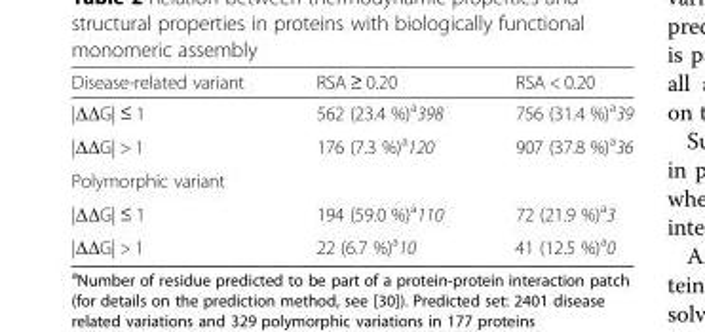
<table><thead><tr><td>Disease-related variant</td><td>RSA ≥ 0.20</td><td>RSA &lt; 0.20</td></tr></thead><tbody><tr><td>|ΔΔG| ≤ 1</td><td>562 (23.4 %)<sup>a</sup>398</td><td>756 (31.4 %)<sup>a</sup>39</td></tr><tr><td>|ΔΔG| &gt; 1</td><td>176 (7.3 %)<sup>a</sup>120</td><td>907 (37.8 %)<sup>a</sup>36</td></tr><tr><td colspan="3">Polymorphic variant</td></tr><tr><td>|ΔΔG| ≤ 1</td><td>194 (59.0 %)<sup>a</sup>110</td><td>72 (21.9 %)<sup>a</sup>3</td></tr><tr><td>|ΔΔG| &gt; 1</td><td>22 (6.7 %)<sup>a</sup>10</td><td>41 (12.5 %)<sup>a</sup>0</td></tr></tbody></table>